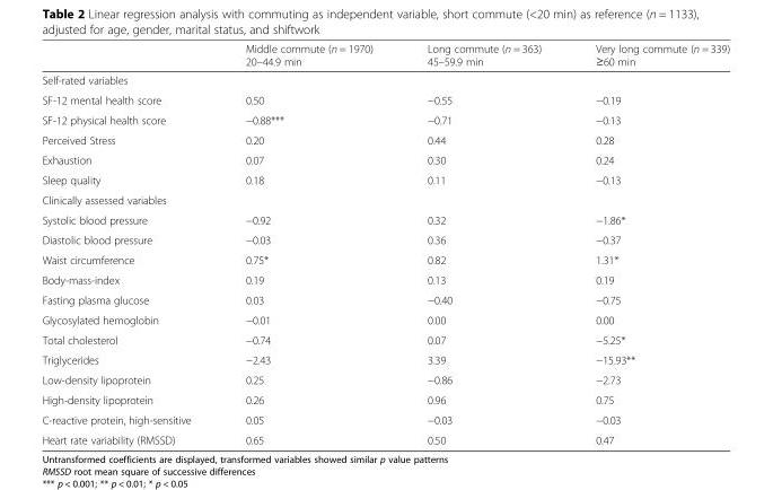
<table><thead><tr><td></td><td>Middle commute (n = 1970) 20–44.9 min</td><td>Long commute (n = 363) 45–59.9 min</td><td>Very long commute (n = 339) ≥60 min</td></tr></thead><tbody><tr><td colspan="4">Self-rated variables</td></tr><tr><td>SF-12 mental health score</td><td>0.50</td><td>−0.55</td><td>−0.19</td></tr><tr><td>SF-12 physical health score</td><td>−0.88***</td><td>−0.71</td><td>−0.13</td></tr><tr><td>Perceived Stress</td><td>0.20</td><td>0.44</td><td>0.28</td></tr><tr><td>Exhaustion</td><td>0.07</td><td>0.30</td><td>0.24</td></tr><tr><td>Sleep quality</td><td>0.18</td><td>0.11</td><td>−0.13</td></tr><tr><td colspan="4">Clinically assessed variables</td></tr><tr><td>Systolic blood pressure</td><td>−0.92</td><td>0.32</td><td>−1.86*</td></tr><tr><td>Diastolic blood pressure</td><td>−0.03</td><td>0.36</td><td>−0.37</td></tr><tr><td>Waist circumference</td><td>0.75*</td><td>0.82</td><td>1.31*</td></tr><tr><td>Body-mass-index</td><td>0.19</td><td>0.13</td><td>0.19</td></tr><tr><td>Fasting plasma glucose</td><td>0.03</td><td>−0.40</td><td>−0.75</td></tr><tr><td>Glycosylated hemoglobin</td><td>−0.01</td><td>0.00</td><td>0.00</td></tr><tr><td>Total cholesterol</td><td>−0.74</td><td>0.07</td><td>−5.25*</td></tr><tr><td>Triglycerides</td><td>−2.43</td><td>3.39</td><td>−15.93**</td></tr><tr><td>Low-density lipoprotein</td><td>0.25</td><td>−0.86</td><td>−2.73</td></tr><tr><td>High-density lipoprotein</td><td>0.26</td><td>0.96</td><td>0.75</td></tr><tr><td>C-reactive protein, high-sensitive</td><td>0.05</td><td>−0.03</td><td>−0.03</td></tr><tr><td>Heart rate variability (RMSSD)</td><td>0.65</td><td>0.50</td><td>0.47</td></tr></tbody></table>